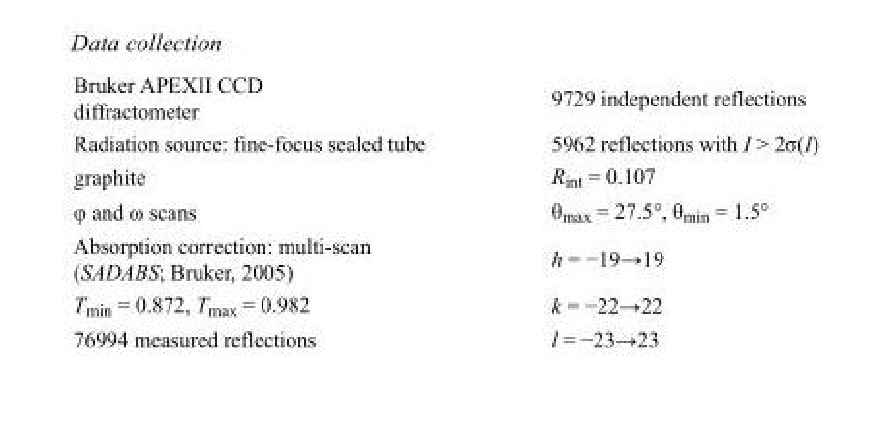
<table><tbody><tr><td>Bruker APEXII CCD diffractometer</td><td>9729 independent reflections</td></tr><tr><td>Radiation source: fine-focus sealed tube</td><td>5962 reflections with I &gt; 2σ(I)</td></tr><tr><td>graphite</td><td>R<sub>int</sub> = 0.107</td></tr><tr><td>φ and ω scans</td><td>θ<sub>max</sub> = 27.5°, θ<sub>min</sub> = 1.5°</td></tr><tr><td>Absorption correction: multi-scan (SADABS; Bruker, 2005)</td><td>h = −19→19</td></tr><tr><td>T<sub>min</sub> = 0.872, T<sub>max</sub> = 0.982</td><td>k = −22→22</td></tr><tr><td>76994 measured reflections</td><td>l = −23→23</td></tr></tbody></table>